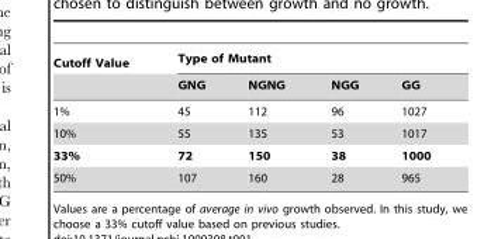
<table><thead><tr><td rowspan="2">Cutoff Value</td><td colspan="4">Type of Mutant</td></tr><tr><td>GNG</td><td>NGNG</td><td>NGG</td><td>GG</td></tr></thead><tbody><tr><td>1%</td><td>45</td><td>112</td><td>96</td><td>1027</td></tr><tr><td>10%</td><td>55</td><td>135</td><td>53</td><td>1017</td></tr><tr><td>33%</td><td>72</td><td>150</td><td>38</td><td>1000</td></tr><tr><td>50%</td><td>107</td><td>160</td><td>28</td><td>965</td></tr></tbody></table>